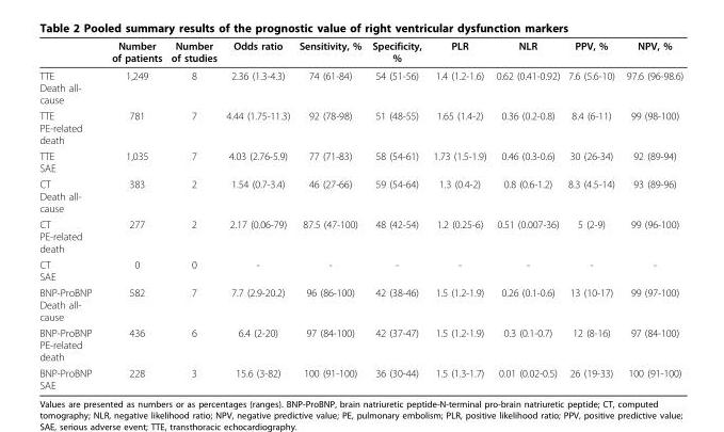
<table><thead><tr><td></td><td>Number of patients</td><td>Number of studies</td><td>Odds ratio</td><td>Sensitivity, %</td><td>Specificity, %</td><td>PLR</td><td>NLR</td><td>PPV, %</td><td>NPV, %</td></tr></thead><tbody><tr><td>TTE Death all- cause</td><td>1,249</td><td>8</td><td>2.36 (1.3-4.3)</td><td>74 (61-84)</td><td>54 (51-56)</td><td>1.4 (1.2-1.6)</td><td>0.62 (0.41-0.92)</td><td>7.6 (5.6-10)</td><td>97.6 (96-98.6)</td></tr><tr><td>TTE PE-related death</td><td>781</td><td>7</td><td>4.44 (1.75-11.3)</td><td>92 (78-98)</td><td>51 (48-55)</td><td>1.65 (1.4-2)</td><td>0.36 (0.2-0.8)</td><td>8.4 (6-11)</td><td>99 (98-100)</td></tr><tr><td>TTE SAE</td><td>1,035</td><td>7</td><td>4.03 (2.76-5.9)</td><td>77 (71-83)</td><td>58 (54-61)</td><td>1.73 (1.5-1.9)</td><td>0.46 (0.3-0.6)</td><td>30 (26-34)</td><td>92 (89-94)</td></tr><tr><td>CT Death all- cause</td><td>383</td><td>2</td><td>1.54 (0.7-3.4)</td><td>46 (27-66)</td><td>59 (54-64)</td><td>1.3 (0.4-2)</td><td>0.8 (0.6-1.2)</td><td>8.3 (4.5-14)</td><td>93 (89-96)</td></tr><tr><td>CT PE-related death</td><td>277</td><td>2</td><td>2.17 (0.06-79)</td><td>87.5 (47-100)</td><td>48 (42-54)</td><td>1.2 (0.25-6)</td><td>0.51 (0.007-36)</td><td>5 (2-9)</td><td>99 (96-100)</td></tr><tr><td>CT SAE</td><td>0</td><td>0</td><td>-</td><td>-</td><td>-</td><td>-</td><td>-</td><td>-</td><td>-</td></tr><tr><td>BNP-ProBNP Death all- cause</td><td>582</td><td>7</td><td>7.7 (2.9-20.2)</td><td>96 (86-100)</td><td>42 (38-46)</td><td>1.5 (1.2-1.9)</td><td>0.26 (0.1-0.6)</td><td>13 (10-17)</td><td>99 (97-100)</td></tr><tr><td>BNP-ProBNP PE-related death</td><td>436</td><td>6</td><td>6.4 (2-20)</td><td>97 (84-100)</td><td>42 (37-47)</td><td>1.5 (1.2-1.9)</td><td>0.3 (0.1-0.7)</td><td>12 (8-16)</td><td>97 (84-100)</td></tr><tr><td>BNP-ProBNP SAE</td><td>228</td><td>3</td><td>15.6 (3-82)</td><td>100 (91-100)</td><td>36 (30-44)</td><td>1.5 (1.3-1.7)</td><td>0.01 (0.02-0.5)</td><td>26 (19-33)</td><td>100 (91-100)</td></tr></tbody></table>